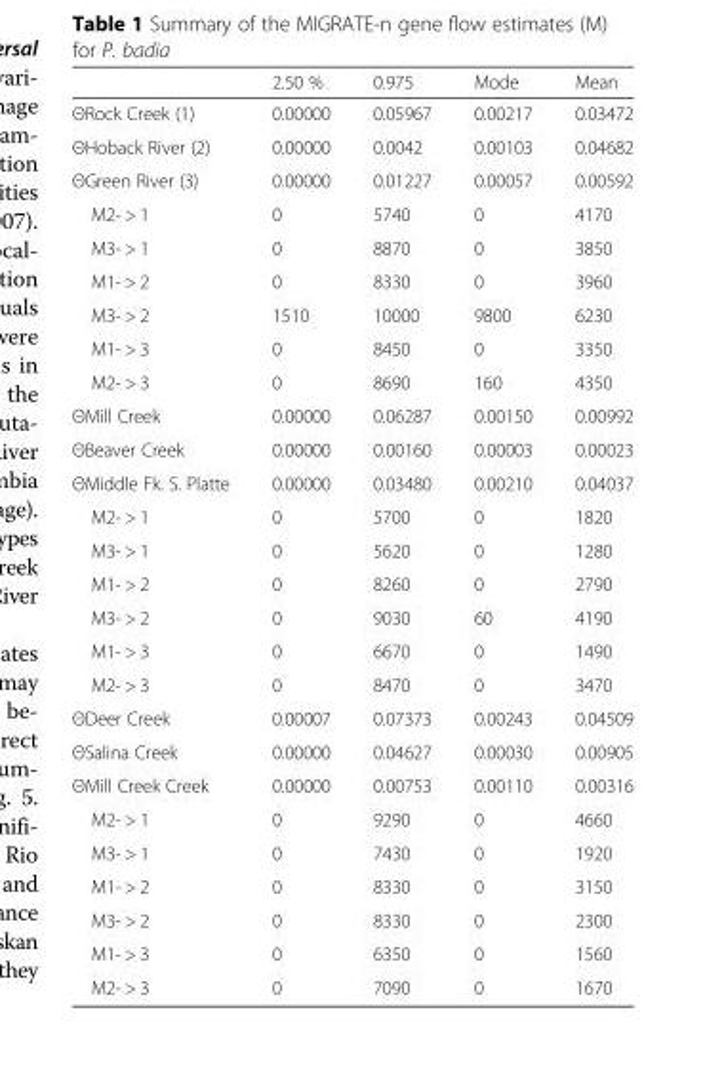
<table><thead><tr><td></td><td>2.50 %</td><td>0.975</td><td>Mode</td><td>Mean</td></tr></thead><tbody><tr><td>ΘRock Creek (1)</td><td>0.00000</td><td>0.05967</td><td>0.00217</td><td>0.03472</td></tr><tr><td>ΘHoback River (2)</td><td>0.00000</td><td>0.0042</td><td>0.00103</td><td>0.04682</td></tr><tr><td>ΘGreen River (3)</td><td>0.00000</td><td>0.01227</td><td>0.00057</td><td>0.00592</td></tr><tr><td>M2- &gt; 1</td><td>0</td><td>5740</td><td>0</td><td>4170</td></tr><tr><td>M3- &gt; 1</td><td>0</td><td>8870</td><td>0</td><td>3850</td></tr><tr><td>M1- &gt; 2</td><td>0</td><td>8330</td><td>0</td><td>3960</td></tr><tr><td>M3- &gt; 2</td><td>1510</td><td>10000</td><td>9800</td><td>6230</td></tr><tr><td>M1- &gt; 3</td><td>0</td><td>8450</td><td>0</td><td>3350</td></tr><tr><td>M2- &gt; 3</td><td>0</td><td>8690</td><td>160</td><td>4350</td></tr><tr><td>ΘMill Creek</td><td>0.00000</td><td>0.06287</td><td>0.00150</td><td>0.00992</td></tr><tr><td>ΘBeaver Creek</td><td>0.00000</td><td>0.00160</td><td>0.00003</td><td>0.00023</td></tr><tr><td>ΘMiddle Fk. S. Platte</td><td>0.00000</td><td>0.03480</td><td>0.00210</td><td>0.04037</td></tr><tr><td>M2- &gt; 1</td><td>0</td><td>5700</td><td>0</td><td>1820</td></tr><tr><td>M3- &gt; 1</td><td>0</td><td>5620</td><td>0</td><td>1280</td></tr><tr><td>M1- &gt; 2</td><td>0</td><td>8260</td><td>0</td><td>2790</td></tr><tr><td>M3- &gt; 2</td><td>0</td><td>9030</td><td>60</td><td>4190</td></tr><tr><td>M1- &gt; 3</td><td>0</td><td>6670</td><td>0</td><td>1490</td></tr><tr><td>M2- &gt; 3</td><td>0</td><td>8470</td><td>0</td><td>3470</td></tr><tr><td>ΘDeer Creek</td><td>0.00007</td><td>0.07373</td><td>0.00243</td><td>0.04509</td></tr><tr><td>ΘSalina Creek</td><td>0.00000</td><td>0.04627</td><td>0.00030</td><td>0.00905</td></tr><tr><td>ΘMill Creek Creek</td><td>0.00000</td><td>0.00753</td><td>0.00110</td><td>0.00316</td></tr><tr><td>M2- &gt; 1</td><td>0</td><td>9290</td><td>0</td><td>4660</td></tr><tr><td>M3- &gt; 1</td><td>0</td><td>7430</td><td>0</td><td>1920</td></tr><tr><td>M1- &gt; 2</td><td>0</td><td>8330</td><td>0</td><td>3150</td></tr><tr><td>M3- &gt; 2</td><td>0</td><td>8330</td><td>0</td><td>2300</td></tr><tr><td>M1- &gt; 3</td><td>0</td><td>6350</td><td>0</td><td>1560</td></tr><tr><td>M2- &gt; 3</td><td>0</td><td>7090</td><td>0</td><td>1670</td></tr></tbody></table>